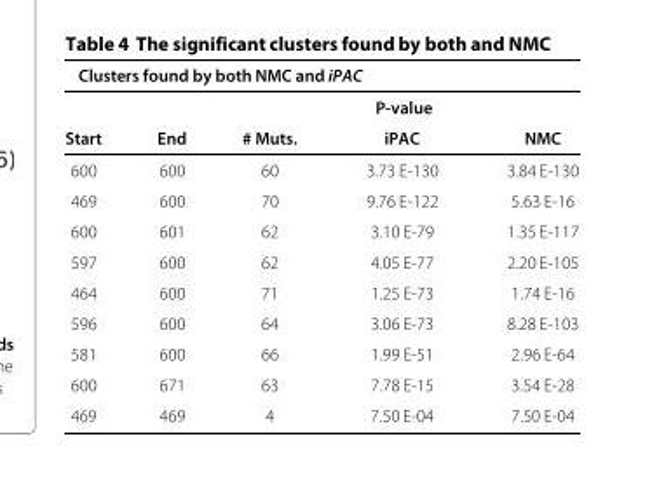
<table><thead><tr><td colspan="4">Clusters found by both NMC and iPAC</td><td></td></tr><tr><td rowspan="2">Start</td><td rowspan="2">End</td><td colspan="3">P-value</td></tr><tr><td># Muts.</td><td>iPAC</td><td>NMC</td></tr></thead><tbody><tr><td>600</td><td>600</td><td>60</td><td>3.73 E-130</td><td>3.84 E-130</td></tr><tr><td>469</td><td>600</td><td>70</td><td>9.76 E-122</td><td>5.63 E-16</td></tr><tr><td>600</td><td>601</td><td>62</td><td>3.10 E-79</td><td>1.35 E-117</td></tr><tr><td>597</td><td>600</td><td>62</td><td>4.05 E-77</td><td>2.20 E-105</td></tr><tr><td>464</td><td>600</td><td>71</td><td>1.25 E-73</td><td>1.74 E-16</td></tr><tr><td>596</td><td>600</td><td>64</td><td>3.06 E-73</td><td>8.28 E-103</td></tr><tr><td>581</td><td>600</td><td>66</td><td>1.99 E-51</td><td>2.96 E-64</td></tr><tr><td>600</td><td>671</td><td>63</td><td>7.78 E-15</td><td>3.54 E-28</td></tr><tr><td>469</td><td>469</td><td>4</td><td>7.50 E-04</td><td>7.50 E-04</td></tr></tbody></table>